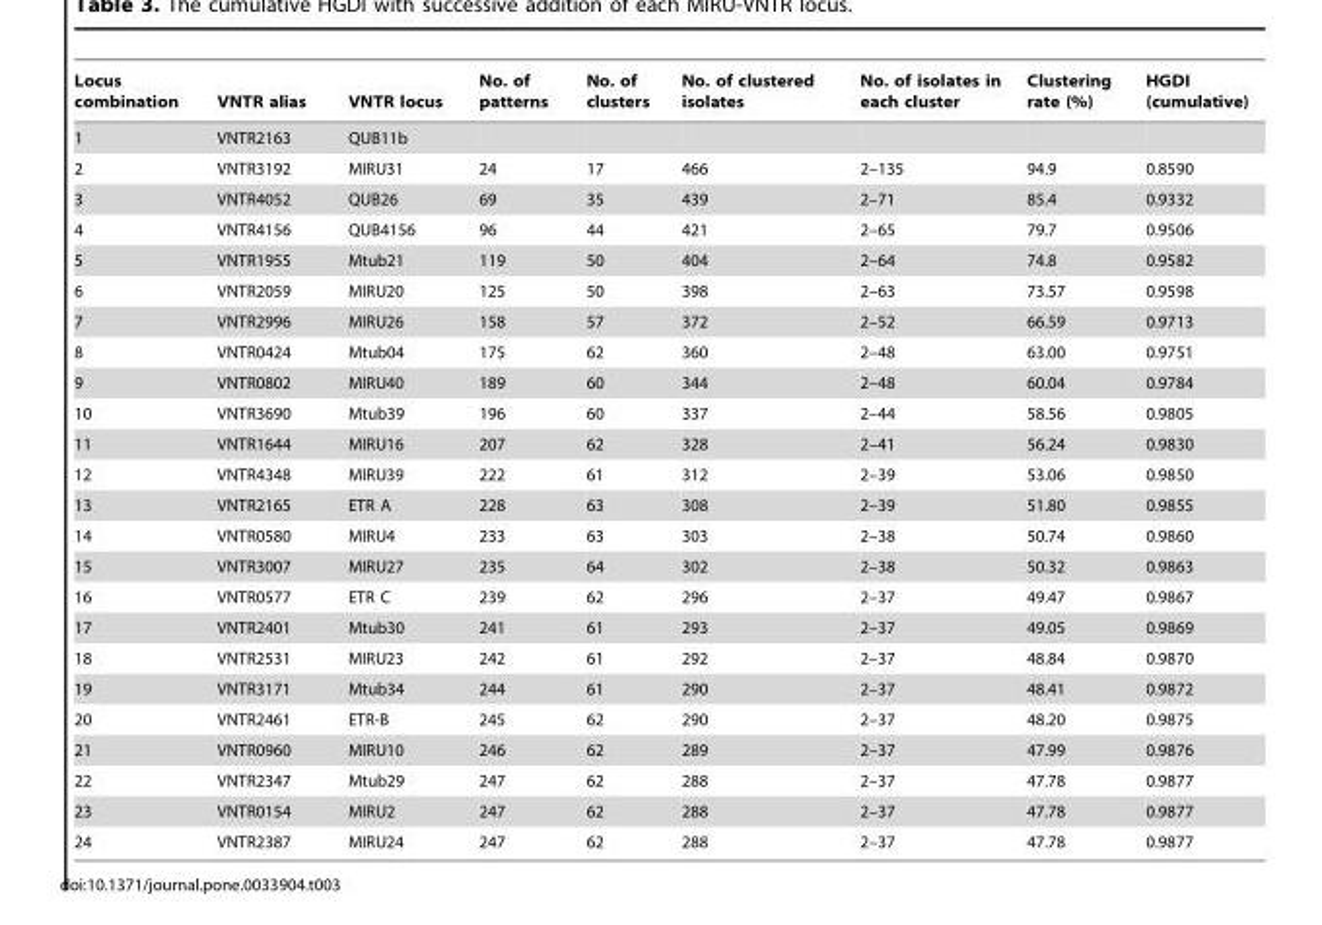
<table><thead><tr><td>Locus combination</td><td>VNTR alias</td><td>VNTR locus</td><td>No. of patterns</td><td>No. of clusters</td><td>No. of clustered isolates</td><td>No. of isolates in each cluster</td><td>Clustering rate (%)</td><td>HGDI (cumulative)</td></tr></thead><tbody><tr><td>1</td><td>VNTR2163</td><td>QUB11b</td><td></td><td></td><td></td><td></td><td></td><td></td></tr><tr><td>2</td><td>VNTR3192</td><td>MIRU31</td><td>24</td><td>17</td><td>466</td><td>2–135</td><td>94.9</td><td>0.8590</td></tr><tr><td>3</td><td>VNTR4052</td><td>QUB26</td><td>69</td><td>35</td><td>439</td><td>2–71</td><td>85.4</td><td>0.9332</td></tr><tr><td>4</td><td>VNTR4156</td><td>QUB4156</td><td>96</td><td>44</td><td>421</td><td>2–65</td><td>79.7</td><td>0.9506</td></tr><tr><td>5</td><td>VNTR1955</td><td>Mtub21</td><td>119</td><td>50</td><td>404</td><td>2–64</td><td>74.8</td><td>0.9582</td></tr><tr><td>6</td><td>VNTR2059</td><td>MIRU20</td><td>125</td><td>50</td><td>398</td><td>2–63</td><td>73.57</td><td>0.9598</td></tr><tr><td>7</td><td>VNTR2996</td><td>MIRU26</td><td>158</td><td>57</td><td>372</td><td>2–52</td><td>66.59</td><td>0.9713</td></tr><tr><td>8</td><td>VNTR0424</td><td>Mtub04</td><td>175</td><td>62</td><td>360</td><td>2–48</td><td>63.00</td><td>0.9751</td></tr><tr><td>9</td><td>VNTR0802</td><td>MIRU40</td><td>189</td><td>60</td><td>344</td><td>2–48</td><td>60.04</td><td>0.9784</td></tr><tr><td>10</td><td>VNTR3690</td><td>Mtub39</td><td>196</td><td>60</td><td>337</td><td>2–44</td><td>58.56</td><td>0.9805</td></tr><tr><td>11</td><td>VNTR1644</td><td>MIRU16</td><td>207</td><td>62</td><td>328</td><td>2–41</td><td>56.24</td><td>0.9830</td></tr><tr><td>12</td><td>VNTR4348</td><td>MIRU39</td><td>222</td><td>61</td><td>312</td><td>2–39</td><td>53.06</td><td>0.9850</td></tr><tr><td>13</td><td>VNTR2165</td><td>ETR A</td><td>228</td><td>63</td><td>308</td><td>2–39</td><td>51.80</td><td>0.9855</td></tr><tr><td>14</td><td>VNTR0580</td><td>MIRU4</td><td>233</td><td>63</td><td>303</td><td>2–38</td><td>50.74</td><td>0.9860</td></tr><tr><td>15</td><td>VNTR3007</td><td>MIRU27</td><td>235</td><td>64</td><td>302</td><td>2–38</td><td>50.32</td><td>0.9863</td></tr><tr><td>16</td><td>VNTR0577</td><td>ETR C</td><td>239</td><td>62</td><td>296</td><td>2–37</td><td>49.47</td><td>0.9867</td></tr><tr><td>17</td><td>VNTR2401</td><td>Mtub30</td><td>241</td><td>61</td><td>293</td><td>2–37</td><td>49.05</td><td>0.9869</td></tr><tr><td>18</td><td>VNTR2531</td><td>MIRU23</td><td>242</td><td>61</td><td>292</td><td>2–37</td><td>48.84</td><td>0.9870</td></tr><tr><td>19</td><td>VNTR3171</td><td>Mtub34</td><td>244</td><td>61</td><td>290</td><td>2–37</td><td>48.41</td><td>0.9872</td></tr><tr><td>20</td><td>VNTR2461</td><td>ETR-B</td><td>245</td><td>62</td><td>290</td><td>2–37</td><td>48.20</td><td>0.9875</td></tr><tr><td>21</td><td>VNTR0960</td><td>MIRU10</td><td>246</td><td>62</td><td>289</td><td>2–37</td><td>47.99</td><td>0.9876</td></tr><tr><td>22</td><td>VNTR2347</td><td>Mtub29</td><td>247</td><td>62</td><td>288</td><td>2–37</td><td>47.78</td><td>0.9877</td></tr><tr><td>23</td><td>VNTR0154</td><td>MIRU2</td><td>247</td><td>62</td><td>288</td><td>2–37</td><td>47.78</td><td>0.9877</td></tr><tr><td>24</td><td>VNTR2387</td><td>MIRU24</td><td>247</td><td>62</td><td>288</td><td>2–37</td><td>47.78</td><td>0.9877</td></tr></tbody></table>